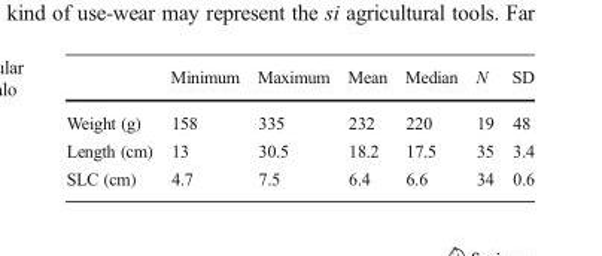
<table><thead><tr><td></td><td>Minimum</td><td>Maximum</td><td>Mean</td><td>Median</td><td>N</td><td>SD</td></tr></thead><tbody><tr><td>Weight (g)</td><td>158</td><td>335</td><td>232</td><td>220</td><td>19</td><td>48</td></tr><tr><td>Length (cm)</td><td>13</td><td>30.5</td><td>18.2</td><td>17.5</td><td>35</td><td>3.4</td></tr><tr><td>SLC (cm)</td><td>4.7</td><td>7.5</td><td>6.4</td><td>6.6</td><td>34</td><td>0.6</td></tr></tbody></table>